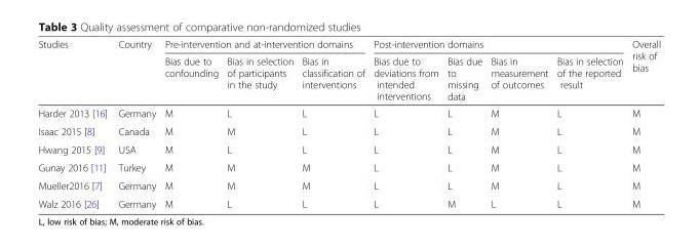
<table><thead><tr><td rowspan="2">Studies</td><td rowspan="2">Country</td><td colspan="3">Pre-intervention and at-intervention domains</td><td colspan="4">Post-intervention domains</td><td rowspan="2">Overall risk of bias</td></tr><tr><td>Bias due to confounding</td><td>Bias in selection of participants in the study</td><td>Bias in classification of interventions</td><td>Bias due to deviations from intended interventions</td><td>Bias due to missing data</td><td>Bias in measurement of outcomes</td><td>Bias in selection of the reported result</td></tr></thead><tbody><tr><td>Harder 2013 [16]</td><td>Germany</td><td>M</td><td>L</td><td>L</td><td>L</td><td>L</td><td>M</td><td>L</td><td>M</td></tr><tr><td>Isaac 2015 [8]</td><td>Canada</td><td>M</td><td>M</td><td>L</td><td>L</td><td>L</td><td>M</td><td>L</td><td>M</td></tr><tr><td>Hwang 2015 [9]</td><td>USA</td><td>M</td><td>L</td><td>L</td><td>L</td><td>L</td><td>M</td><td>L</td><td>M</td></tr><tr><td>Gunay 2016 [11]</td><td>Turkey</td><td>M</td><td>M</td><td>M</td><td>L</td><td>L</td><td>M</td><td>L</td><td>M</td></tr><tr><td>Mueller2016 [7]</td><td>Germany</td><td>M</td><td>M</td><td>M</td><td>L</td><td>L</td><td>M</td><td>L</td><td>M</td></tr><tr><td>Walz 2016 [26]</td><td>Germany</td><td>M</td><td>L</td><td>L</td><td>L</td><td>M</td><td>L</td><td>L</td><td>M</td></tr></tbody></table>